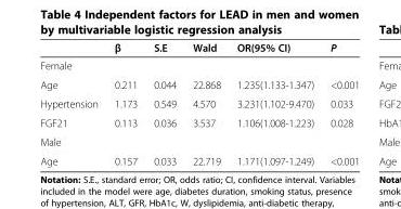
<table><thead><tr><td></td><td>β</td><td>S.E</td><td>Wald</td><td>OR(95% CI)</td><td>P</td></tr></thead><tbody><tr><td colspan="6">Female</td></tr><tr><td>Age</td><td>0.211</td><td>0.044</td><td>22.868</td><td>1.235(1.133-1.347)</td><td>&lt;0.001</td></tr><tr><td>Hypertension</td><td>1.173</td><td>0.549</td><td>4.570</td><td>3.231(1.102-9.470)</td><td>0.033</td></tr><tr><td>FGF21</td><td>0.113</td><td>0.036</td><td>3.537</td><td>1.106(1.008-1.223)</td><td>0.028</td></tr><tr><td colspan="6">Male</td></tr><tr><td>Age</td><td>0.157</td><td>0.033</td><td>22.719</td><td>1.171(1.097-1.249)</td><td>&lt;0.001</td></tr></tbody></table>